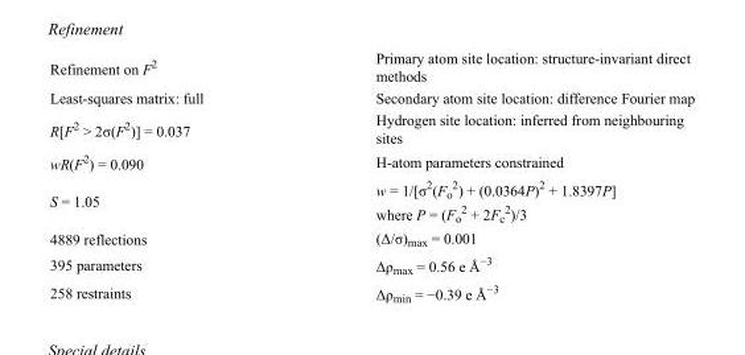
<table><tbody><tr><td>Refinement on F<sup>2</sup></td><td>Primary atom site location: structure-invariant direct methods</td></tr><tr><td>Least-squares matrix: full</td><td>Secondary atom site location: difference Fourier map</td></tr><tr><td>R[F<sup>2</sup> &gt; 2σ(F<sup>2</sup>)] = 0.037</td><td>Hydrogen site location: inferred from neighbouring sites</td></tr><tr><td>wR(F<sup>2</sup>) = 0.090</td><td>H-atom parameters constrained</td></tr><tr><td>S = 1.05</td><td>w = 1/[σ<sup>2</sup>(F<sub>o</sub> <sup>2</sup>) + (0.0364P)<sup>2</sup> + 1.8397P] where P = (F<sub>o</sub> <sup>2</sup> + 2F<sub>c</sub> <sup>2</sup>)/3</td></tr><tr><td>4889 reflections</td><td>(Δ/σ)<sub>max</sub> = 0.001</td></tr><tr><td>395 parameters</td><td>Δρ<sub>max</sub> = 0.56 e Å<sup>−3</sup></td></tr><tr><td>258 restraints</td><td>Δρ<sub>min</sub> = −0.39 e Å<sup>−3</sup></td></tr></tbody></table>